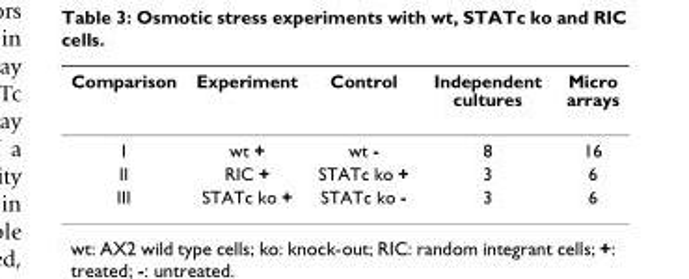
<table><thead><tr><td>Comparison</td><td>Experiment</td><td>Control</td><td>Independent cultures</td><td>Micro arrays</td></tr></thead><tbody><tr><td>I</td><td>wt +</td><td>wt -</td><td>8</td><td>16</td></tr><tr><td>II</td><td>RIC +</td><td>STATc ko +</td><td>3</td><td>6</td></tr><tr><td>III</td><td>STATc ko +</td><td>STATc ko -</td><td>3</td><td>6</td></tr></tbody></table>